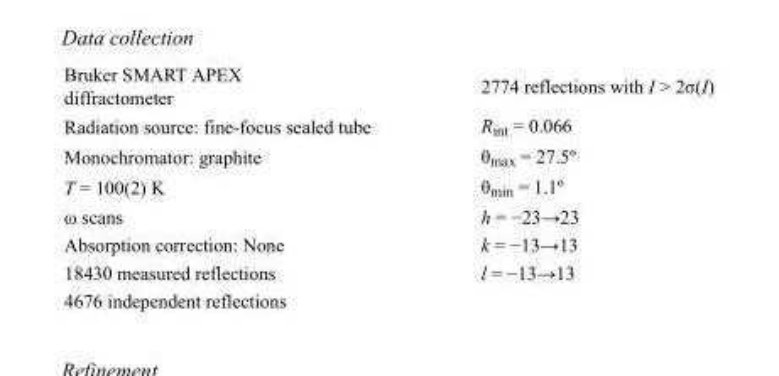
<table><tbody><tr><td>Bruker SMART APEX diffractometer</td><td>2774 reflections with I &gt; 2σ(I)</td></tr><tr><td>Radiation source: fine-focus sealed tube</td><td>R<sub>int</sub> = 0.066</td></tr><tr><td>Monochromator: graphite</td><td>θ<sub>max</sub> = 27.5º</td></tr><tr><td>T = 100(2) K</td><td>θ<sub>min</sub> = 1.1º</td></tr><tr><td>ω scans</td><td>h = −23→23</td></tr><tr><td>Absorption correction: None</td><td>k = −13→13</td></tr><tr><td>18430 measured reflections</td><td>l = −13→13</td></tr><tr><td>4676 independent reflections</td><td></td></tr></tbody></table>